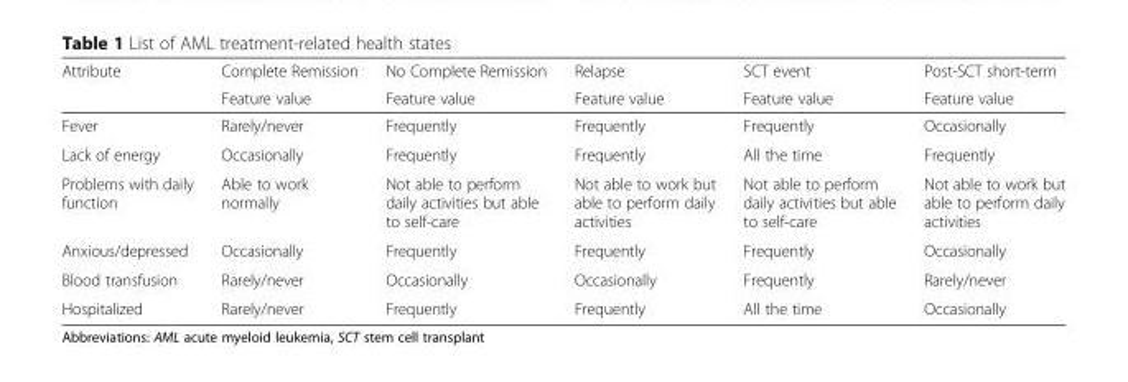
<table><thead><tr><td rowspan="2">Attribute</td><td rowspan="2">Complete Remission Feature value</td><td rowspan="2">No Complete Remission Feature value</td><td rowspan="2">Relapse Feature value</td><td rowspan="2">SCT event Feature value</td><td rowspan="2">Post-SCT short-term Feature value</td></tr><tr></tr></thead><tbody><tr><td>Fever</td><td>Rarely/never</td><td>Frequently</td><td>Frequently</td><td>Frequently</td><td>Occasionally</td></tr><tr><td>Lack of energy</td><td>Occasionally</td><td>Frequently</td><td>Frequently</td><td>All the time</td><td>Frequently</td></tr><tr><td>Problems with daily function</td><td>Able to work normally</td><td>Not able to perform daily activities but able to self-care</td><td>Not able to work but able to perform daily activities</td><td>Not able to perform daily activities but able to self-care</td><td>Not able to work but able to perform daily activities</td></tr><tr><td>Anxious/depressed</td><td>Occasionally</td><td>Frequently</td><td>Frequently</td><td>Frequently</td><td>Occasionally</td></tr><tr><td>Blood transfusion</td><td>Rarely/never</td><td>Occasionally</td><td>Occasionally</td><td>Frequently</td><td>Rarely/never</td></tr><tr><td>Hospitalized</td><td>Rarely/never</td><td>Frequently</td><td>Frequently</td><td>All the time</td><td>Occasionally</td></tr></tbody></table>